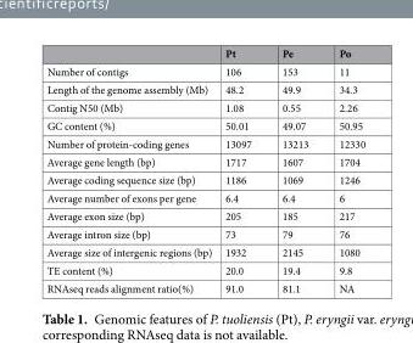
<table><thead><tr><td></td><td>Pt</td><td>Pe</td><td>Po</td></tr></thead><tbody><tr><td>Number of contigs</td><td>106</td><td>153</td><td>11</td></tr><tr><td>Length of the genome assembly (Mb)</td><td>48.2</td><td>49.9</td><td>34.3</td></tr><tr><td>Contig N50 (Mb)</td><td>1.08</td><td>0.55</td><td>2.26</td></tr><tr><td>GC content (%)</td><td>50.01</td><td>49.07</td><td>50.95</td></tr><tr><td>Number of protein-coding genes</td><td>13097</td><td>13213</td><td>12330</td></tr><tr><td>Average gene length (bp)</td><td>1717</td><td>1607</td><td>1704</td></tr><tr><td>Average coding sequence size (bp)</td><td>1186</td><td>1069</td><td>1246</td></tr><tr><td>Average number of exons per gene</td><td>6.4</td><td>6.4</td><td>6</td></tr><tr><td>Average exon size (bp)</td><td>205</td><td>185</td><td>217</td></tr><tr><td>Average intron size (bp)</td><td>73</td><td>79</td><td>76</td></tr><tr><td>Average size of intergenic regions (bp)</td><td>1932</td><td>2145</td><td>1080</td></tr><tr><td>TE content (%)</td><td>20.0</td><td>19.4</td><td>9.8</td></tr><tr><td>RNAseq reads alignment ratio(%)</td><td>91.0</td><td>81.1</td><td>NA</td></tr></tbody></table>